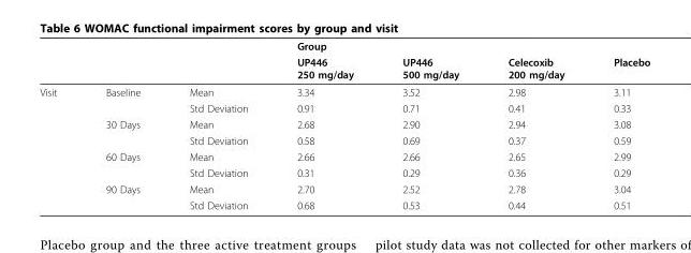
<table><thead><tr><td rowspan="2"></td><td rowspan="2"></td><td rowspan="2"></td><td colspan="4">Group</td></tr><tr><td>UP446 250 mg/day</td><td>UP446 500 mg/day</td><td>Celecoxib 200 mg/day</td><td>Placebo</td></tr></thead><tbody><tr><td rowspan="8">Visit</td><td>Baseline</td><td>Mean</td><td>3.34</td><td>3.52</td><td>2.98</td><td>3.11</td></tr><tr><td></td><td>Std Deviation</td><td>0.91</td><td>0.71</td><td>0.41</td><td>0.33</td></tr><tr><td>30 Days</td><td>Mean</td><td>2.68</td><td>2.90</td><td>2.94</td><td>3.08</td></tr><tr><td></td><td>Std Deviation</td><td>0.58</td><td>0.69</td><td>0.37</td><td>0.59</td></tr><tr><td>60 Days</td><td>Mean</td><td>2.66</td><td>2.66</td><td>2.65</td><td>2.99</td></tr><tr><td></td><td>Std Deviation</td><td>0.31</td><td>0.29</td><td>0.36</td><td>0.29</td></tr><tr><td>90 Days</td><td>Mean</td><td>2.70</td><td>2.52</td><td>2.78</td><td>3.04</td></tr><tr><td></td><td>Std Deviation</td><td>0.68</td><td>0.53</td><td>0.44</td><td>0.51</td></tr></tbody></table>